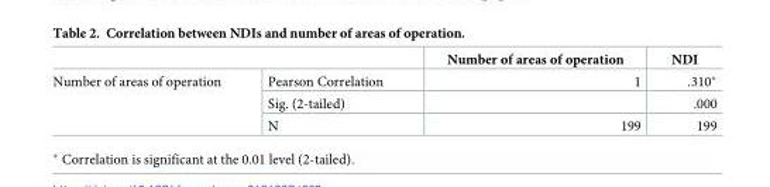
<table><thead><tr><td></td><td></td><td>Number of areas of operation</td><td>NDI</td></tr></thead><tbody><tr><td rowspan="3">Number of areas of operation</td><td>Pearson Correlation</td><td>1</td><td>.310*</td></tr><tr><td>Sig. (2-tailed)</td><td></td><td>.000</td></tr><tr><td>N</td><td>199</td><td>199</td></tr></tbody></table>